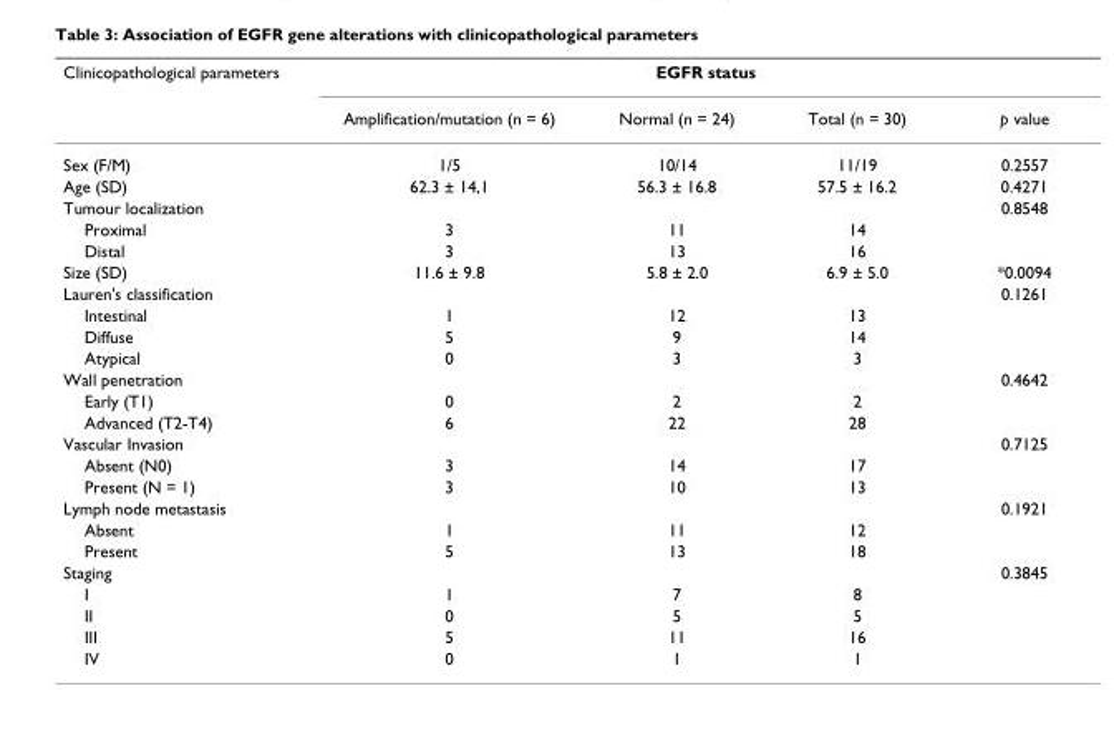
<table><thead><tr><td rowspan="2">Clinicopathological parameters</td><td colspan="4">EGFR status</td></tr><tr><td>Amplification/mutation (n = 6)</td><td>Normal (n = 24)</td><td>Total (n = 30)</td><td>p value</td></tr></thead><tbody><tr><td>Sex (F/M)</td><td>1/5</td><td>10/14</td><td>11/19</td><td>0.2557</td></tr><tr><td>Age (SD)</td><td>62.3 ± 14,1</td><td>56.3 ± 16.8</td><td>57.5 ± 16.2</td><td>0.4271</td></tr><tr><td>Tumour localization</td><td></td><td></td><td></td><td>0.8548</td></tr><tr><td>Proximal</td><td>3</td><td>11</td><td>14</td><td></td></tr><tr><td>Distal</td><td>3</td><td>13</td><td>16</td><td></td></tr><tr><td>Size (SD)</td><td>11.6 ± 9.8</td><td>5.8 ± 2.0</td><td>6.9 ± 5.0</td><td>*0.0094</td></tr><tr><td>Lauren&#x27;s classification</td><td></td><td></td><td></td><td>0.1261</td></tr><tr><td>Intestinal</td><td>1</td><td>12</td><td>13</td><td></td></tr><tr><td>Diffuse</td><td>5</td><td>9</td><td>14</td><td></td></tr><tr><td>Atypical</td><td>0</td><td>3</td><td>3</td><td></td></tr><tr><td>Wall penetration</td><td></td><td></td><td></td><td>0.4642</td></tr><tr><td>Early (T1)</td><td>0</td><td>2</td><td>2</td><td></td></tr><tr><td>Advanced (T2-T4)</td><td>6</td><td>22</td><td>28</td><td></td></tr><tr><td>Vascular Invasion</td><td></td><td></td><td></td><td>0.7125</td></tr><tr><td>Absent (N0)</td><td>3</td><td>14</td><td>17</td><td></td></tr><tr><td>Present (N = 1)</td><td>3</td><td>10</td><td>13</td><td></td></tr><tr><td>Lymph node metastasis</td><td></td><td></td><td></td><td>0.1921</td></tr><tr><td>Absent</td><td>1</td><td>11</td><td>12</td><td></td></tr><tr><td>Present</td><td>5</td><td>13</td><td>18</td><td></td></tr><tr><td>Staging</td><td></td><td></td><td></td><td>0.3845</td></tr><tr><td>I</td><td>1</td><td>7</td><td>8</td><td></td></tr><tr><td>II</td><td>0</td><td>5</td><td>5</td><td></td></tr><tr><td>III</td><td>5</td><td>11</td><td>16</td><td></td></tr><tr><td>IV</td><td>0</td><td>1</td><td>1</td><td></td></tr></tbody></table>